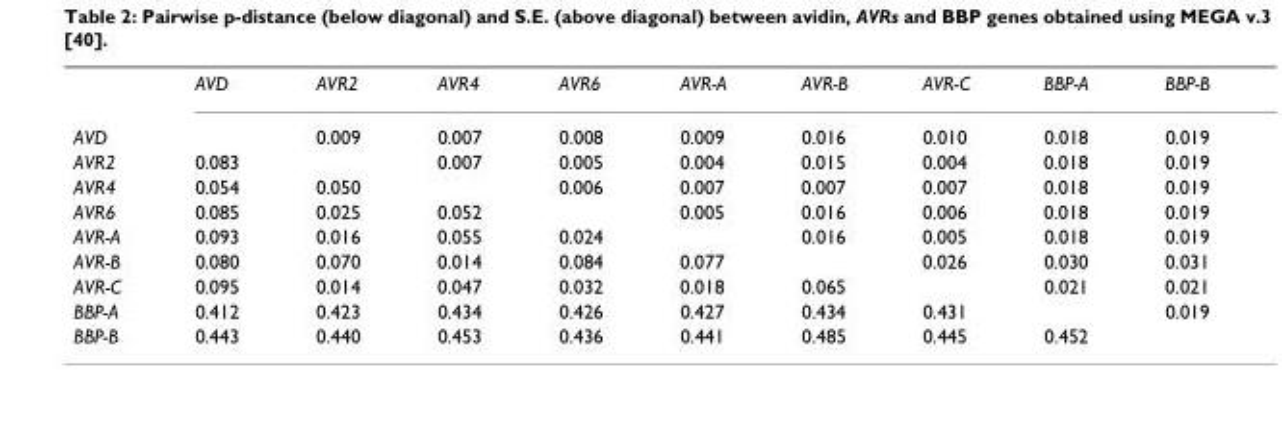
<table><thead><tr><td></td><td>AVD</td><td>AVR2</td><td>AVR4</td><td>AVR6</td><td>AVR-A</td><td>AVR-B</td><td>AVR-C</td><td>BBP-A</td><td>BBP-B</td></tr></thead><tbody><tr><td>AVD</td><td></td><td>0.009</td><td>0.007</td><td>0.008</td><td>0.009</td><td>0.016</td><td>0.010</td><td>0.018</td><td>0.019</td></tr><tr><td>AVR2</td><td>0.083</td><td></td><td>0.007</td><td>0.005</td><td>0.004</td><td>0.015</td><td>0.004</td><td>0.018</td><td>0.019</td></tr><tr><td>AVR4</td><td>0.054</td><td>0.050</td><td></td><td>0.006</td><td>0.007</td><td>0.007</td><td>0.007</td><td>0.018</td><td>0.019</td></tr><tr><td>AVR6</td><td>0.085</td><td>0.025</td><td>0.052</td><td></td><td>0.005</td><td>0.016</td><td>0.006</td><td>0.018</td><td>0.019</td></tr><tr><td>AVR-A</td><td>0.093</td><td>0.016</td><td>0.055</td><td>0.024</td><td></td><td>0.016</td><td>0.005</td><td>0.018</td><td>0.019</td></tr><tr><td>AVR-B</td><td>0.080</td><td>0.070</td><td>0.014</td><td>0.084</td><td>0.077</td><td></td><td>0.026</td><td>0.030</td><td>0.031</td></tr><tr><td>AVR-C</td><td>0.095</td><td>0.014</td><td>0.047</td><td>0.032</td><td>0.018</td><td>0.065</td><td></td><td>0.021</td><td>0.021</td></tr><tr><td>BBP-A</td><td>0.412</td><td>0.423</td><td>0.434</td><td>0.426</td><td>0.427</td><td>0.434</td><td>0.431</td><td></td><td>0.019</td></tr><tr><td>BBP-B</td><td>0.443</td><td>0.440</td><td>0.453</td><td>0.436</td><td>0.441</td><td>0.485</td><td>0.445</td><td>0.452</td><td></td></tr></tbody></table>